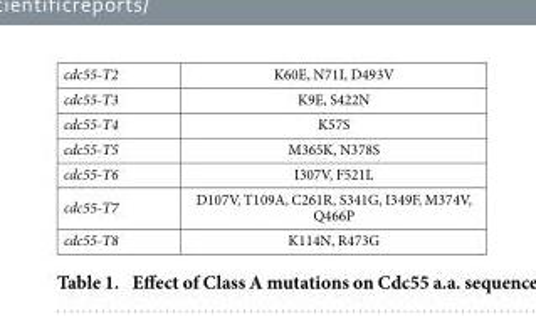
<table><tbody><tr><td>cdc55-T2</td><td>K60E, N71I, D493V</td></tr><tr><td>cdc55-T3</td><td>K9E, S422N</td></tr><tr><td>cdc55-T4</td><td>K57S</td></tr><tr><td>cdc55-T5</td><td>M365K, N378S</td></tr><tr><td>cdc55-T6</td><td>I307V, F521L</td></tr><tr><td>cdc55-T7</td><td>D107V, T109A, C261R, S341G, I349F, M374V, Q466P</td></tr><tr><td>cdc55-T8</td><td>K114N, R473G</td></tr></tbody></table>